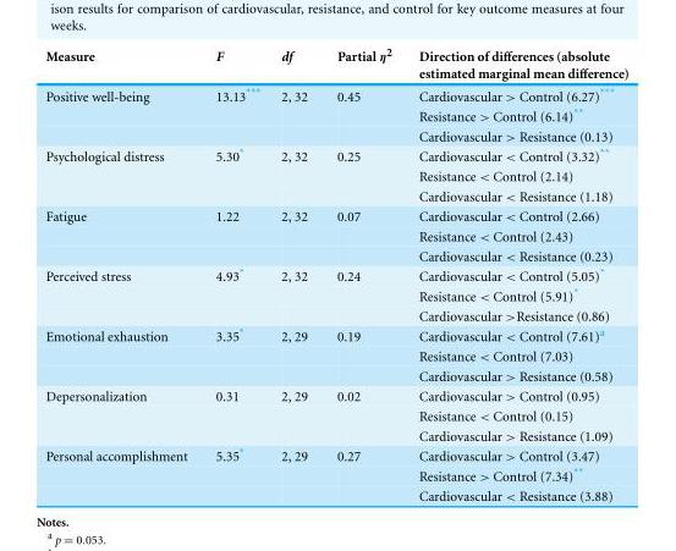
<table><thead><tr><td>Measure</td><td>F</td><td>df</td><td>Partial η<sup>2</sup></td><td>Direction of differences (absolute estimated marginal mean difference)</td></tr></thead><tbody><tr><td rowspan="3">Positive well-being</td><td>13.13***</td><td>2, 32</td><td>0.45</td><td>Cardiovascular &gt; Control (6.27)***</td></tr><tr><td></td><td></td><td></td><td>Resistance &gt; Control (6.14)**</td></tr><tr><td></td><td></td><td></td><td>Cardiovascular &gt; Resistance (0.13)</td></tr><tr><td rowspan="3">Psychological distress</td><td>5.30*</td><td>2, 32</td><td>0.25</td><td>Cardiovascular &lt; Control (3.32)**</td></tr><tr><td></td><td></td><td></td><td>Resistance &lt; Control (2.14)</td></tr><tr><td></td><td></td><td></td><td>Cardiovascular &lt; Resistance (1.18)</td></tr><tr><td rowspan="3">Fatigue</td><td>1.22</td><td>2, 32</td><td>0.07</td><td>Cardiovascular &lt; Control (2.66)</td></tr><tr><td></td><td></td><td></td><td>Resistance &lt; Control (2.43)</td></tr><tr><td></td><td></td><td></td><td>Cardiovascular &lt; Resistance (0.23)</td></tr><tr><td rowspan="3">Perceived stress</td><td>4.93*</td><td>2, 32</td><td>0.24</td><td>Cardiovascular &lt; Control (5.05)*</td></tr><tr><td></td><td></td><td></td><td>Resistance &lt; Control (5.91)*</td></tr><tr><td></td><td></td><td></td><td>Cardiovascular &gt;Resistance (0.86)</td></tr><tr><td rowspan="3">Emotional exhaustion</td><td>3.35*</td><td>2, 29</td><td>0.19</td><td>Cardiovascular &lt; Control (7.61)<sup>a</sup></td></tr><tr><td></td><td></td><td></td><td>Resistance &lt; Control (7.03)</td></tr><tr><td></td><td></td><td></td><td>Cardiovascular &gt; Resistance (0.58)</td></tr><tr><td rowspan="3">Depersonalization</td><td>0.31</td><td>2, 29</td><td>0.02</td><td>Cardiovascular &gt; Control (0.95)</td></tr><tr><td></td><td></td><td></td><td>Resistance &lt; Control (0.15)</td></tr><tr><td></td><td></td><td></td><td>Cardiovascular &gt; Resistance (1.09)</td></tr><tr><td rowspan="3">Personal accomplishment</td><td>5.35*</td><td>2, 29</td><td>0.27</td><td>Cardiovascular &gt; Control (3.47)</td></tr><tr><td></td><td></td><td></td><td>Resistance &gt; Control (7.34)**</td></tr><tr><td></td><td></td><td></td><td>Cardiovascular &lt; Resistance (3.88)</td></tr></tbody></table>